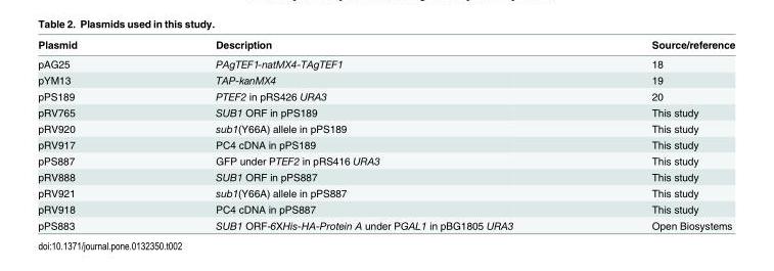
<table><thead><tr><td>Plasmid</td><td>Description</td><td>Source/reference</td></tr></thead><tbody><tr><td>pAG25</td><td>PAgTEF1-natMX4-TAgTEF1</td><td>18</td></tr><tr><td>pYM13</td><td>TAP-kanMX4</td><td>19</td></tr><tr><td>pPS189</td><td>PTEF2 in pRS426 URA3</td><td>20</td></tr><tr><td>pRV765</td><td>SUB1 ORF in pPS189</td><td>This study</td></tr><tr><td>pRV920</td><td>sub1(Y66A) allele in pPS189</td><td>This study</td></tr><tr><td>pRV917</td><td>PC4 cDNA in pPS189</td><td>This study</td></tr><tr><td>pPS887</td><td>GFP under PTEF2 in pRS416 URA3</td><td>This study</td></tr><tr><td>pRV888</td><td>SUB1 ORF in pPS887</td><td>This study</td></tr><tr><td>pRV921</td><td>sub1(Y66A) allele in pPS887</td><td>This study</td></tr><tr><td>pRV918</td><td>PC4 cDNA in pPS887</td><td>This study</td></tr><tr><td>pPS883</td><td>SUB1 ORF-6XHis-HA-Protein A under PGAL1 in pBG1805 URA3</td><td>Open Biosystems</td></tr></tbody></table>